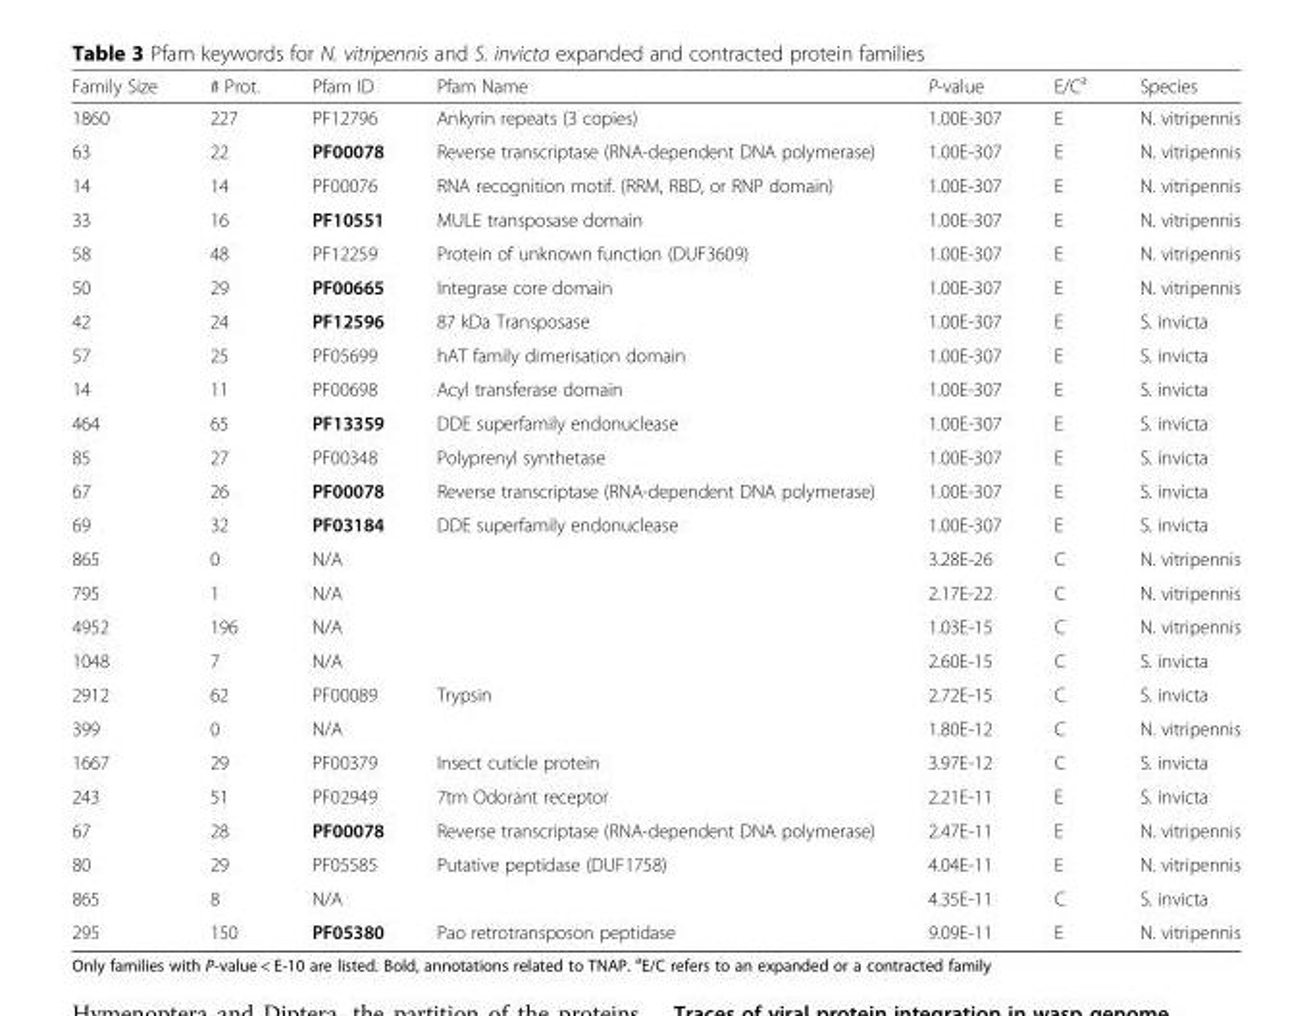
<table><thead><tr><td>Family Size</td><td># Prot.</td><td>Pfam ID</td><td>Pfam Name</td><td>P-value</td><td>E/C<sup>a</sup></td><td>Species</td></tr></thead><tbody><tr><td>1860</td><td>227</td><td>PF12796</td><td>Ankyrin repeats (3 copies)</td><td>1.00E-307</td><td>E</td><td>N. vitripennis</td></tr><tr><td>63</td><td>22</td><td>PF00078</td><td>Reverse transcriptase (RNA-dependent DNA polymerase)</td><td>1.00E-307</td><td>E</td><td>N. vitripennis</td></tr><tr><td>14</td><td>14</td><td>PF00076</td><td>RNA recognition motif. (RRM, RBD, or RNP domain)</td><td>1.00E-307</td><td>E</td><td>N. vitripennis</td></tr><tr><td>33</td><td>16</td><td>PF10551</td><td>MULE transposase domain</td><td>1.00E-307</td><td>E</td><td>N. vitripennis</td></tr><tr><td>58</td><td>48</td><td>PF12259</td><td>Protein of unknown function (DUF3609)</td><td>1.00E-307</td><td>E</td><td>N. vitripennis</td></tr><tr><td>50</td><td>29</td><td>PF00665</td><td>Integrase core domain</td><td>1.00E-307</td><td>E</td><td>N. vitripennis</td></tr><tr><td>42</td><td>24</td><td>PF12596</td><td>87 kDa Transposase</td><td>1.00E-307</td><td>E</td><td>S. invicta</td></tr><tr><td>57</td><td>25</td><td>PF05699</td><td>hAT family dimerisation domain</td><td>1.00E-307</td><td>E</td><td>S. invicta</td></tr><tr><td>14</td><td>11</td><td>PF00698</td><td>Acyl transferase domain</td><td>1.00E-307</td><td>E</td><td>S. invicta</td></tr><tr><td>464</td><td>65</td><td>PF13359</td><td>DDE superfamily endonuclease</td><td>1.00E-307</td><td>E</td><td>S. invicta</td></tr><tr><td>85</td><td>27</td><td>PF00348</td><td>Polyprenyl synthetase</td><td>1.00E-307</td><td>E</td><td>S. invicta</td></tr><tr><td>67</td><td>26</td><td>PF00078</td><td>Reverse transcriptase (RNA-dependent DNA polymerase)</td><td>1.00E-307</td><td>E</td><td>S. invicta</td></tr><tr><td>69</td><td>32</td><td>PF03184</td><td>DDE superfamily endonuclease</td><td>1.00E-307</td><td>E</td><td>S. invicta</td></tr><tr><td>865</td><td>0</td><td>N/A</td><td></td><td>3.28E-26</td><td>C</td><td>N. vitripennis</td></tr><tr><td>795</td><td>1</td><td>N/A</td><td></td><td>2.17E-22</td><td>C</td><td>N. vitripennis</td></tr><tr><td>4952</td><td>196</td><td>N/A</td><td></td><td>1.03E-15</td><td>C</td><td>N. vitripennis</td></tr><tr><td>1048</td><td>7</td><td>N/A</td><td></td><td>2.60E-15</td><td>C</td><td>S. invicta</td></tr><tr><td>2912</td><td>62</td><td>PF00089</td><td>Trypsin</td><td>2.72E-15</td><td>C</td><td>S. invicta</td></tr><tr><td>399</td><td>0</td><td>N/A</td><td></td><td>1.80E-12</td><td>C</td><td>N. vitripennis</td></tr><tr><td>1667</td><td>29</td><td>PF00379</td><td>Insect cuticle protein</td><td>3.97E-12</td><td>C</td><td>S. invicta</td></tr><tr><td>243</td><td>51</td><td>PF02949</td><td>7tm Odorant receptor</td><td>2.21E-11</td><td>E</td><td>S. invicta</td></tr><tr><td>67</td><td>28</td><td>PF00078</td><td>Reverse transcriptase (RNA-dependent DNA polymerase)</td><td>2.47E-11</td><td>E</td><td>N. vitripennis</td></tr><tr><td>80</td><td>29</td><td>PF05585</td><td>Putative peptidase (DUF1758)</td><td>4.04E-11</td><td>E</td><td>N. vitripennis</td></tr><tr><td>865</td><td>8</td><td>N/A</td><td></td><td>4.35E-11</td><td>C</td><td>S. invicta</td></tr><tr><td>295</td><td>150</td><td>PF05380</td><td>Pao retrotransposon peptidase</td><td>9.09E-11</td><td>E</td><td>N. vitripennis</td></tr></tbody></table>